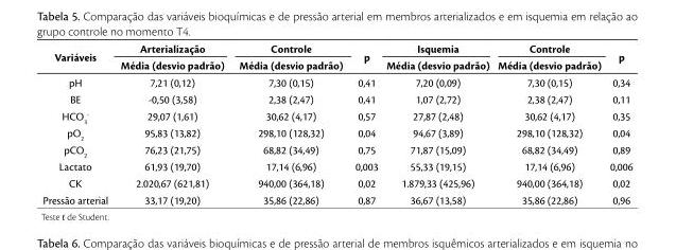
<table><thead><tr><td rowspan="2">Variáveis</td><td rowspan="2">Arterialização Média (desvio padrão)</td><td rowspan="2">Controle Média (desvio padrão)</td><td rowspan="2">p</td><td rowspan="2">Isquemia Média (desvio padrão)</td><td rowspan="2">Controle Média (desvio padrão)</td><td rowspan="2">p</td></tr><tr></tr></thead><tbody><tr><td>pH</td><td>7,21 (0,12)</td><td>7,30 (0,15)</td><td>0,41</td><td>7,20 (0,09)</td><td>7,30 (0,15)</td><td>0,34</td></tr><tr><td>BE</td><td>-0,50 (3,58)</td><td>2,38 (2,47)</td><td>0,41</td><td>1,07 (2,72)</td><td>2,38 (2,47)</td><td>0,11</td></tr><tr><td>HCO<sub>3</sub> <sup>-</sup></td><td>29,07 (1,61)</td><td>30,62 (4,17)</td><td>0,57</td><td>27,87 (2,48)</td><td>30,62 (4,17)</td><td>0,35</td></tr><tr><td>pO<sub>2</sub></td><td>95,83 (13,82)</td><td>298,10 (128,32)</td><td>0,04</td><td>94,67 (3,89)</td><td>298,10 (128,32)</td><td>0,04</td></tr><tr><td>pCO<sub>2</sub></td><td>76,23 (21,75)</td><td>68,82 (34,49)</td><td>0,75</td><td>71,87 (15,09)</td><td>68,82 (34,49)</td><td>0,89</td></tr><tr><td>Lactato</td><td>61,93 (19,70)</td><td>17,14 (6,96)</td><td>0,003</td><td>55,33 (19,15)</td><td>17,14 (6,96)</td><td>0,006</td></tr><tr><td>CK</td><td>2.020,67 (621,81)</td><td>940,00 (364,18)</td><td>0,02</td><td>1.879,33 (425,96)</td><td>940,00 (364,18)</td><td>0,02</td></tr><tr><td>Pressão arterial</td><td>33,17 (19,20)</td><td>35,86 (22,86)</td><td>0,87</td><td>36,67 (13,58)</td><td>35,86 (22,86)</td><td>0,96</td></tr></tbody></table>